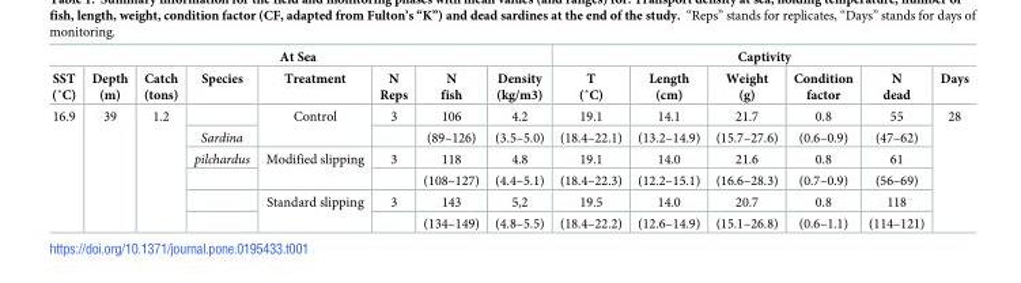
<table><thead><tr><td colspan="8">At Sea</td><td colspan="6">Captivity</td></tr><tr><td>SST (˚C)</td><td>Depth (m)</td><td>Catch (tons)</td><td>Species</td><td>Treatment</td><td>N Reps</td><td>N fish</td><td>Density (kg/m3)</td><td>T (˚C)</td><td>Length (cm)</td><td>Weight (g)</td><td>Condition factor</td><td>N dead</td><td>Days</td></tr></thead><tbody><tr><td rowspan="6">16.9</td><td rowspan="6">39</td><td rowspan="6">1.2</td><td></td><td rowspan="2">Control</td><td>3</td><td>106</td><td>4.2</td><td>19.1</td><td>14.1</td><td>21.7</td><td>0.8</td><td>55</td><td rowspan="6">28</td></tr><tr><td>Sardina</td><td></td><td>(89–126)</td><td>(3.5–5.0)</td><td>(18.4–22.1)</td><td>(13.2–14.9)</td><td>(15.7–27.6)</td><td>(0.6–0.9)</td><td>(47–62)</td></tr><tr><td>pilchardus</td><td rowspan="2">Modified slipping</td><td>3</td><td>118</td><td>4.8</td><td>19.1</td><td>14.0</td><td>21.6</td><td>0.8</td><td>61</td></tr><tr><td></td><td></td><td>(108–127)</td><td>(4.4–5.1)</td><td>(18.4–22.3)</td><td>(12.2–15.1)</td><td>(16.6–28.3)</td><td>(0.7–0.9)</td><td>(56–69)</td></tr><tr><td></td><td rowspan="2">Standard slipping</td><td>3</td><td>143</td><td>5,2</td><td>19.5</td><td>14.0</td><td>20.7</td><td>0.8</td><td>118</td></tr><tr><td></td><td></td><td>(134–149)</td><td>(4.8–5.5)</td><td>(18.4–22.2)</td><td>(12.6–14.9)</td><td>(15.1–26.8)</td><td>(0.6–1.1)</td><td>(114–121)</td></tr></tbody></table>